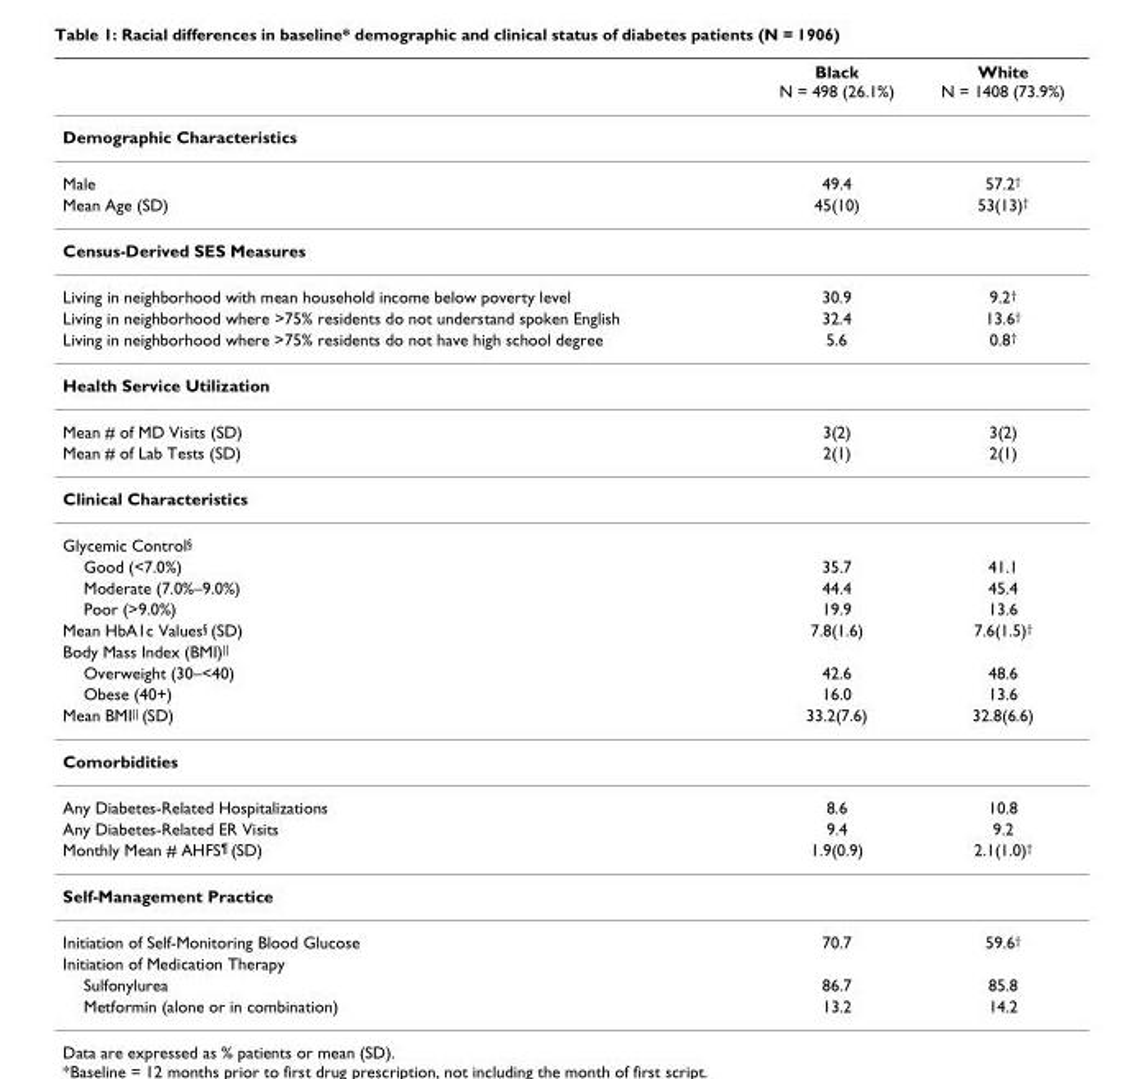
<table><thead><tr><td></td><td>Black N = 498 (26.1%)</td><td>White N = 1408 (73.9%)</td></tr></thead><tbody><tr><td colspan="3">Demographic Characteristics</td></tr><tr><td>Male</td><td>49.4</td><td>57.2<sup>†</sup></td></tr><tr><td>Mean Age (SD)</td><td>45(10)</td><td>53(13)<sup>†</sup></td></tr><tr><td colspan="3">Census-Derived SES Measures</td></tr><tr><td>Living in neighborhood with mean household income below poverty level</td><td>30.9</td><td>9.2<sup>†</sup></td></tr><tr><td>Living in neighborhood where &gt;75% residents do not understand spoken English</td><td>32.4</td><td>13.6<sup>†</sup></td></tr><tr><td>Living in neighborhood where &gt;75% residents do not have high school degree</td><td>5.6</td><td>0.8<sup>†</sup></td></tr><tr><td colspan="3">Health Service Utilization</td></tr><tr><td>Mean # of MD Visits (SD)</td><td>3(2)</td><td>3(2)</td></tr><tr><td>Mean # of Lab Tests (SD)</td><td>2(1)</td><td>2(1)</td></tr><tr><td colspan="3">Clinical Characteristics</td></tr><tr><td colspan="3">Glycemic Control<sup>§</sup></td></tr><tr><td>Good (&lt;7.0%)</td><td>35.7</td><td>41.1</td></tr><tr><td>Moderate (7.0%–9.0%)</td><td>44.4</td><td>45.4</td></tr><tr><td>Poor (&gt;9.0%)</td><td>19.9</td><td>13.6</td></tr><tr><td>Mean HbA1c Values<sup>§</sup> (SD)</td><td>7.8(1.6)</td><td>7.6(1.5)<sup>†</sup></td></tr><tr><td colspan="3">Body Mass Index (BMI)<sup>||</sup></td></tr><tr><td>Overweight (30–&lt;40)</td><td>42.6</td><td>48.6</td></tr><tr><td>Obese (40+)</td><td>16.0</td><td>13.6</td></tr><tr><td>Mean BMI<sup>||</sup> (SD)</td><td>33.2(7.6)</td><td>32.8(6.6)</td></tr><tr><td colspan="3">Comorbidities</td></tr><tr><td>Any Diabetes-Related Hospitalizations</td><td>8.6</td><td>10.8</td></tr><tr><td>Any Diabetes-Related ER Visits</td><td>9.4</td><td>9.2</td></tr><tr><td>Monthly Mean # AHFS<sup>¶</sup> (SD)</td><td>1.9(0.9)</td><td>2.1(1.0)<sup>†</sup></td></tr><tr><td colspan="3">Self-Management Practice</td></tr><tr><td>Initiation of Self-Monitoring Blood Glucose</td><td>70.7</td><td>59.6<sup>†</sup></td></tr><tr><td colspan="3">Initiation of Medication Therapy</td></tr><tr><td>Sulfonylurea</td><td>86.7</td><td>85.8</td></tr><tr><td>Metformin (alone or in combination)</td><td>13.2</td><td>14.2</td></tr></tbody></table>